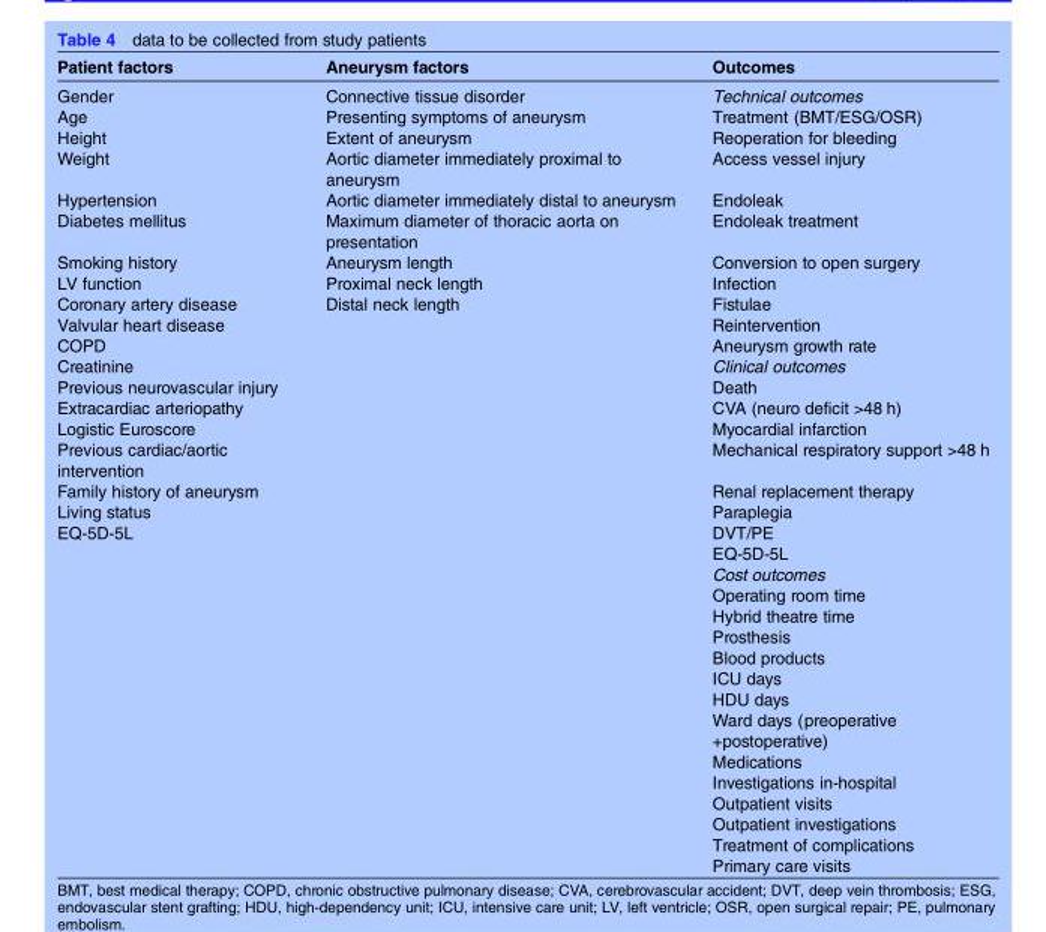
<table><thead><tr><td>Patient factors</td><td>Aneurysm factors</td><td>Outcomes</td></tr></thead><tbody><tr><td>Gender</td><td>Connective tissue disorder</td><td>Technical outcomes</td></tr><tr><td>Age</td><td>Presenting symptoms of aneurysm</td><td>Treatment (BMT/ESG/OSR)</td></tr><tr><td>Height</td><td>Extent of aneurysm</td><td>Reoperation for bleeding</td></tr><tr><td>Weight</td><td>Aortic diameter immediately proximal to aneurysm</td><td>Access vessel injury</td></tr><tr><td>Hypertension</td><td>Aortic diameter immediately distal to aneurysm</td><td>Endoleak</td></tr><tr><td>Diabetes mellitus</td><td>Maximum diameter of thoracic aorta on presentation</td><td>Endoleak treatment</td></tr><tr><td>Smoking history</td><td>Aneurysm length</td><td>Conversion to open surgery</td></tr><tr><td>LV function</td><td>Proximal neck length</td><td>Infection</td></tr><tr><td>Coronary artery disease</td><td>Distal neck length</td><td>Fistulae</td></tr><tr><td>Valvular heart disease</td><td></td><td>Reintervention</td></tr><tr><td>COPD</td><td></td><td>Aneurysm growth rate</td></tr><tr><td>Creatinine</td><td></td><td>Clinical outcomes</td></tr><tr><td>Previous neurovascular injury</td><td></td><td>Death</td></tr><tr><td>Extracardiac arteriopathy</td><td></td><td>CVA (neuro deficit &gt;48 h)</td></tr><tr><td>Logistic Euroscore</td><td></td><td>Myocardial infarction</td></tr><tr><td>Previous cardiac/aortic intervention</td><td></td><td>Mechanical respiratory support &gt;48 h</td></tr><tr><td>Family history of aneurysm</td><td></td><td>Renal replacement therapy</td></tr><tr><td>Living status</td><td></td><td>Paraplegia</td></tr><tr><td rowspan="16">EQ-5D-5L</td><td></td><td>DVT/PE</td></tr><tr><td></td><td>EQ-5D-5L</td></tr><tr><td></td><td>Cost outcomes</td></tr><tr><td></td><td>Operating room time</td></tr><tr><td></td><td>Hybrid theatre time</td></tr><tr><td></td><td>Prosthesis</td></tr><tr><td></td><td>Blood products</td></tr><tr><td></td><td>ICU days</td></tr><tr><td></td><td>HDU days</td></tr><tr><td></td><td>Ward days (preoperative +postoperative)</td></tr><tr><td></td><td>Medications</td></tr><tr><td></td><td>Investigations in-hospital</td></tr><tr><td></td><td>Outpatient visits</td></tr><tr><td></td><td>Outpatient investigations</td></tr><tr><td></td><td>Treatment of complications</td></tr><tr><td></td><td>Primary care visits</td></tr></tbody></table>